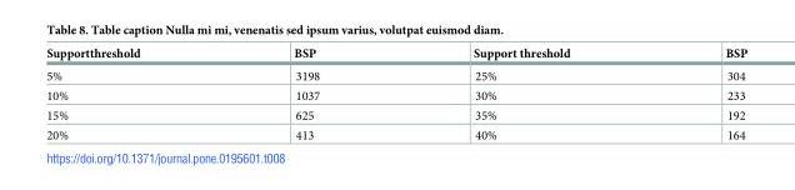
<table><thead><tr><td>Supportthreshold</td><td>BSP</td><td>Support threshold</td><td>BSP</td></tr></thead><tbody><tr><td>5%</td><td>3198</td><td>25%</td><td>304</td></tr><tr><td>10%</td><td>1037</td><td>30%</td><td>233</td></tr><tr><td>15%</td><td>625</td><td>35%</td><td>192</td></tr><tr><td>20%</td><td>413</td><td>40%</td><td>164</td></tr></tbody></table>